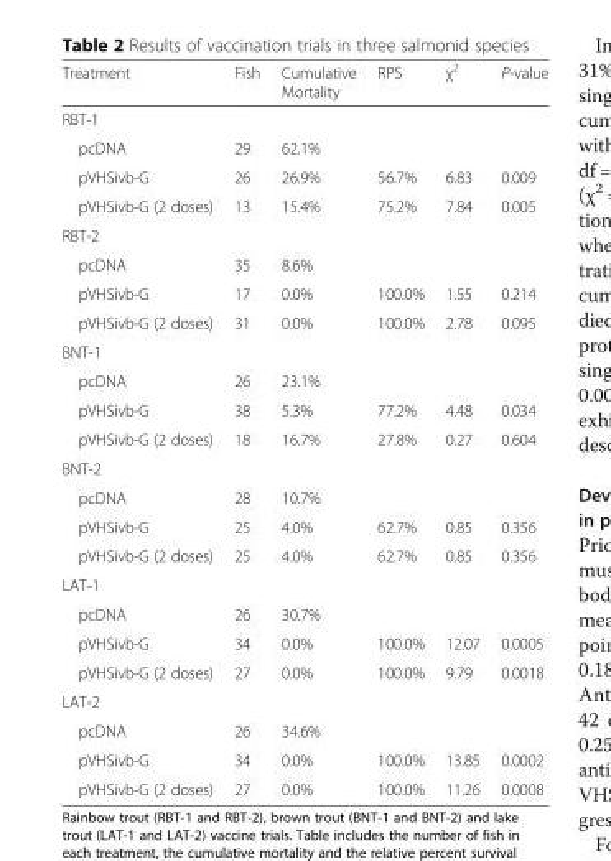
<table><thead><tr><td>Treatment</td><td>Fish</td><td>Cumulative Mortality</td><td>RPS</td><td>χ<sup>2</sup></td><td>P-value</td></tr></thead><tbody><tr><td colspan="6">RBT-1</td></tr><tr><td>pcDNA</td><td>29</td><td>62.1%</td><td></td><td></td><td></td></tr><tr><td>pVHSivb-G</td><td>26</td><td>26.9%</td><td>56.7%</td><td>6.83</td><td>0.009</td></tr><tr><td>pVHSivb-G (2 doses)</td><td>13</td><td>15.4%</td><td>75.2%</td><td>7.84</td><td>0.005</td></tr><tr><td colspan="6">RBT-2</td></tr><tr><td>pcDNA</td><td>35</td><td>8.6%</td><td></td><td></td><td></td></tr><tr><td>pVHSivb-G</td><td>17</td><td>0.0%</td><td>100.0%</td><td>1.55</td><td>0.214</td></tr><tr><td>pVHSivb-G (2 doses)</td><td>31</td><td>0.0%</td><td>100.0%</td><td>2.78</td><td>0.095</td></tr><tr><td colspan="6">BNT-1</td></tr><tr><td>pcDNA</td><td>26</td><td>23.1%</td><td></td><td></td><td></td></tr><tr><td>pVHSivb-G</td><td>38</td><td>5.3%</td><td>77.2%</td><td>4.48</td><td>0.034</td></tr><tr><td>pVHSivb-G (2 doses)</td><td>18</td><td>16.7%</td><td>27.8%</td><td>0.27</td><td>0.604</td></tr><tr><td colspan="6">BNT-2</td></tr><tr><td>pcDNA</td><td>28</td><td>10.7%</td><td></td><td></td><td></td></tr><tr><td>pVHSivb-G</td><td>25</td><td>4.0%</td><td>62.7%</td><td>0.85</td><td>0.356</td></tr><tr><td>pVHSivb-G (2 doses)</td><td>25</td><td>4.0%</td><td>62.7%</td><td>0.85</td><td>0.356</td></tr><tr><td colspan="6">LAT-1</td></tr><tr><td>pcDNA</td><td>26</td><td>30.7%</td><td></td><td></td><td></td></tr><tr><td>pVHSivb-G</td><td>34</td><td>0.0%</td><td>100.0%</td><td>12.07</td><td>0.0005</td></tr><tr><td>pVHSivb-G (2 doses)</td><td>27</td><td>0.0%</td><td>100.0%</td><td>9.79</td><td>0.0018</td></tr><tr><td colspan="6">LAT-2</td></tr><tr><td>pcDNA</td><td>26</td><td>34.6%</td><td></td><td></td><td></td></tr><tr><td>pVHSivb-G</td><td>34</td><td>0.0%</td><td>100.0%</td><td>13.85</td><td>0.0002</td></tr><tr><td>pVHSivb-G (2 doses)</td><td>27</td><td>0.0%</td><td>100.0%</td><td>11.26</td><td>0.0008</td></tr></tbody></table>